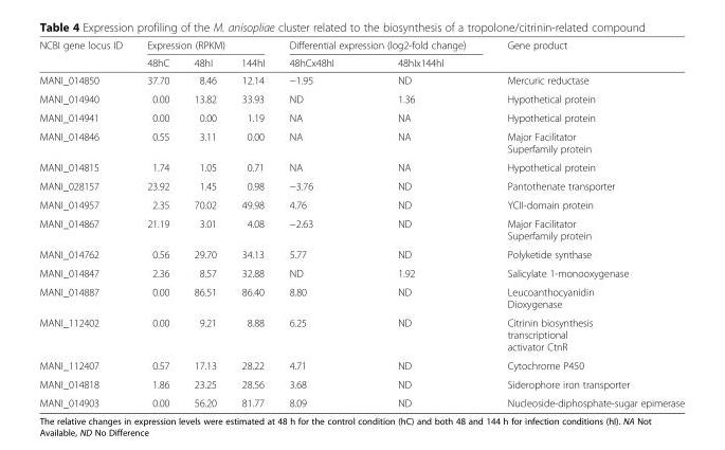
<table><thead><tr><td rowspan="2">NCBI gene locus ID</td><td colspan="3">Expression (RPKM)</td><td colspan="2">Differential expression (log2-fold change)</td><td rowspan="2">Gene product</td></tr><tr><td>48hC</td><td>48hI</td><td>144hI</td><td>48hCx48hI</td><td>48hIx144hI</td></tr></thead><tbody><tr><td>MANI_014850</td><td>37.70</td><td>8.46</td><td>12.14</td><td>−1.95</td><td>ND</td><td>Mercuric reductase</td></tr><tr><td>MANI_014940</td><td>0.00</td><td>13.82</td><td>33.93</td><td>ND</td><td>1.36</td><td>Hypothetical protein</td></tr><tr><td>MANI_014941</td><td>0.00</td><td>0.00</td><td>1.19</td><td>NA</td><td>NA</td><td>Hypothetical protein</td></tr><tr><td>MANI_014846</td><td>0.55</td><td>3.11</td><td>0.00</td><td>NA</td><td>NA</td><td>Major Facilitator Superfamily protein</td></tr><tr><td>MANI_014815</td><td>1.74</td><td>1.05</td><td>0.71</td><td>NA</td><td>NA</td><td>Hypothetical protein</td></tr><tr><td>MANI_028157</td><td>23.92</td><td>1.45</td><td>0.98</td><td>−3.76</td><td>ND</td><td>Pantothenate transporter</td></tr><tr><td>MANI_014957</td><td>2.35</td><td>70.02</td><td>49.98</td><td>4.76</td><td>ND</td><td>YCII-domain protein</td></tr><tr><td>MANI_014867</td><td>21.19</td><td>3.01</td><td>4.08</td><td>−2.63</td><td>ND</td><td>Major Facilitator Superfamily protein</td></tr><tr><td>MANI_014762</td><td>0.56</td><td>29.70</td><td>34.13</td><td>5.77</td><td>ND</td><td>Polyketide synthase</td></tr><tr><td>MANI_014847</td><td>2.36</td><td>8.57</td><td>32.88</td><td>ND</td><td>1.92</td><td>Salicylate 1-monooxygenase</td></tr><tr><td>MANI_014887</td><td>0.00</td><td>86.51</td><td>86.40</td><td>8.80</td><td>ND</td><td>Leucoanthocyanidin Dioxygenase</td></tr><tr><td>MANI_112402</td><td>0.00</td><td>9.21</td><td>8.88</td><td>6.25</td><td>ND</td><td>Citrinin biosynthesis transcriptional activator CtnR</td></tr><tr><td>MANI_112407</td><td>0.57</td><td>17.13</td><td>28.22</td><td>4.71</td><td>ND</td><td>Cytochrome P450</td></tr><tr><td>MANI_014818</td><td>1.86</td><td>23.25</td><td>28.56</td><td>3.68</td><td>ND</td><td>Siderophore iron transporter</td></tr><tr><td>MANI_014903</td><td>0.00</td><td>56.20</td><td>81.77</td><td>8.09</td><td>ND</td><td>Nucleoside-diphosphate-sugar epimerase</td></tr></tbody></table>